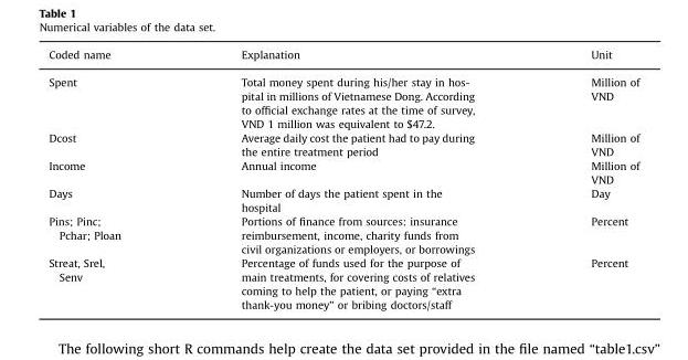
<table><thead><tr><td>Coded name</td><td>Explanation</td><td>Unit</td></tr></thead><tbody><tr><td>Spent</td><td>Total money spent during his/her stay in hos- pital in millions of Vietnamese Dong. According to official exchange rates at the time of survey, VND 1 million was equivalent to $47.2.</td><td>Million of VND</td></tr><tr><td>Dcost</td><td>Average daily cost the patient had to pay during the entire treatment period</td><td>Million of VND</td></tr><tr><td>Income</td><td>Annual income</td><td>Million of VND</td></tr><tr><td>Days</td><td>Number of days the patient spent in the hospital</td><td>Day</td></tr><tr><td>Pins; Pinc; Pchar; Ploan</td><td>Portions of finance from sources: insurance reimbursement, income, charity funds from civil organizations or employers, or borrowings</td><td>Percent</td></tr><tr><td>Streat, Srel, Senv</td><td>Percentage of funds used for the purpose of main treatments, for covering costs of relatives coming to help the patient, or paying “extra thank-you money” or bribing doctors/staff</td><td>Percent</td></tr></tbody></table>